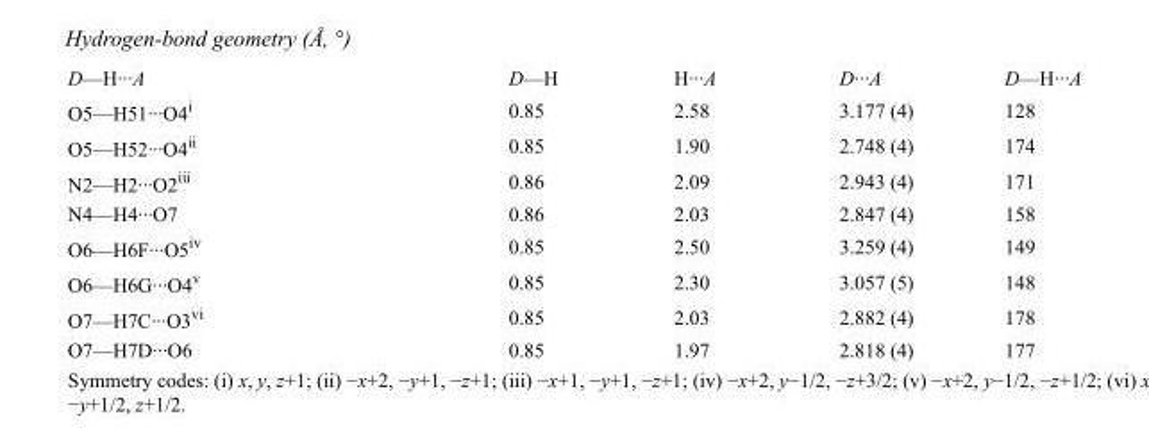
<table><tbody><tr><td>D—H···A</td><td>D—H</td><td>H···A</td><td>D···A</td><td>D—H···A</td></tr><tr><td>O5—H51···O4<sup>i</sup></td><td>0.85</td><td>2.58</td><td>3.177 (4)</td><td>128</td></tr><tr><td>O5—H52···O4<sup>ii</sup></td><td>0.85</td><td>1.90</td><td>2.748 (4)</td><td>174</td></tr><tr><td>N2—H2···O2<sup>iii</sup></td><td>0.86</td><td>2.09</td><td>2.943 (4)</td><td>171</td></tr><tr><td>N4—H4···O7</td><td>0.86</td><td>2.03</td><td>2.847 (4)</td><td>158</td></tr><tr><td>O6—H6F···O5<sup>iv</sup></td><td>0.85</td><td>2.50</td><td>3.259 (4)</td><td>149</td></tr><tr><td>O6—H6G···O4<sup>v</sup></td><td>0.85</td><td>2.30</td><td>3.057 (5)</td><td>148</td></tr><tr><td>O7—H7C···O3<sup>vi</sup></td><td>0.85</td><td>2.03</td><td>2.882 (4)</td><td>178</td></tr><tr><td>O7—H7D···O6</td><td>0.85</td><td>1.97</td><td>2.818 (4)</td><td>177</td></tr></tbody></table>